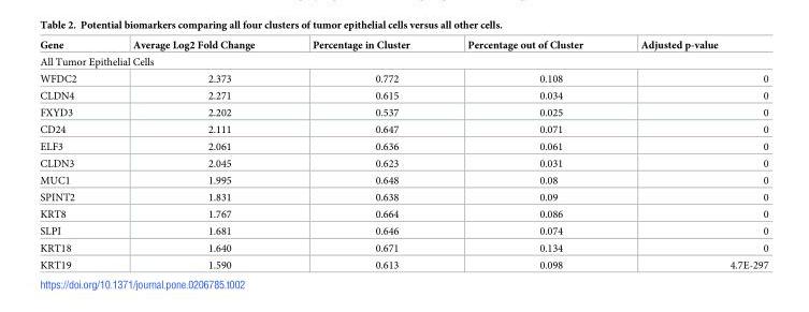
<table><thead><tr><td>Gene</td><td>Average Log2 Fold Change</td><td>Percentage in Cluster</td><td>Percentage out of Cluster</td><td>Adjusted p-value</td></tr></thead><tbody><tr><td colspan="5">All Tumor Epithelial Cells</td></tr><tr><td>WFDC2</td><td>2.373</td><td>0.772</td><td>0.108</td><td>0</td></tr><tr><td>CLDN4</td><td>2.271</td><td>0.615</td><td>0.034</td><td>0</td></tr><tr><td>FXYD3</td><td>2.202</td><td>0.537</td><td>0.025</td><td>0</td></tr><tr><td>CD24</td><td>2.111</td><td>0.647</td><td>0.071</td><td>0</td></tr><tr><td>ELF3</td><td>2.061</td><td>0.636</td><td>0.061</td><td>0</td></tr><tr><td>CLDN3</td><td>2.045</td><td>0.623</td><td>0.031</td><td>0</td></tr><tr><td>MUC1</td><td>1.995</td><td>0.648</td><td>0.08</td><td>0</td></tr><tr><td>SPINT2</td><td>1.831</td><td>0.638</td><td>0.09</td><td>0</td></tr><tr><td>KRT8</td><td>1.767</td><td>0.664</td><td>0.086</td><td>0</td></tr><tr><td>SLPI</td><td>1.681</td><td>0.646</td><td>0.074</td><td>0</td></tr><tr><td>KRT18</td><td>1.640</td><td>0.671</td><td>0.134</td><td>0</td></tr><tr><td>KRT19</td><td>1.590</td><td>0.613</td><td>0.098</td><td>4.7E-297</td></tr></tbody></table>